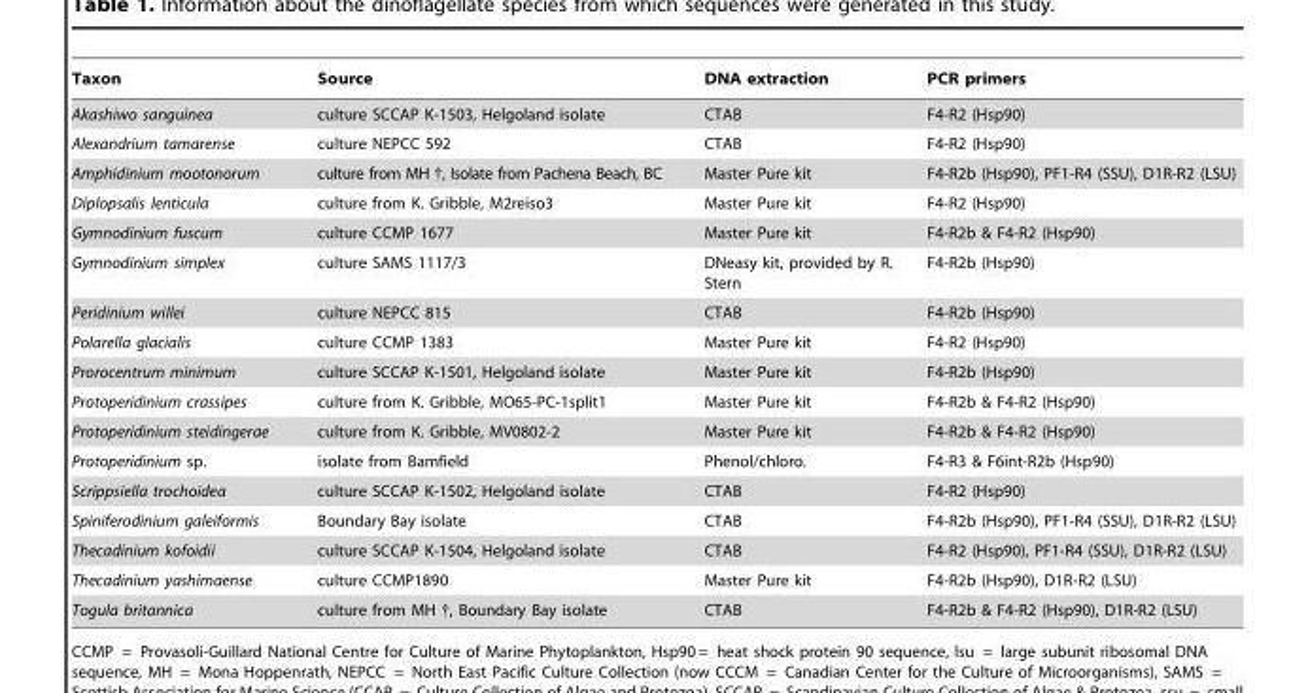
<table><thead><tr><td>Taxon</td><td>Source</td><td>DNA extraction</td><td>PCR primers</td></tr></thead><tbody><tr><td>Akashiwo sanguinea</td><td>culture SCCAP K-1503, Helgoland isolate</td><td>CTAB</td><td>F4-R2 (Hsp90)</td></tr><tr><td>Alexandrium tamarense</td><td>culture NEPCC 592</td><td>CTAB</td><td>F4-R2 (Hsp90)</td></tr><tr><td>Amphidinium mootonorum</td><td>culture from MH †, Isolate from Pachena Beach, BC</td><td>Master Pure kit</td><td>F4-R2b (Hsp90), PF1-R4 (SSU), D1R-R2 (LSU)</td></tr><tr><td>Diplopsalis lenticula</td><td>culture from K. Gribble, M2reiso3</td><td>Master Pure kit</td><td>F4-R2 (Hsp90)</td></tr><tr><td>Gymnodinium fuscum</td><td>culture CCMP 1677</td><td>Master Pure kit</td><td>F4-R2b &amp; F4-R2 (Hsp90)</td></tr><tr><td>Gymnodinium simplex</td><td>culture SAMS 1117/3</td><td>DNeasy kit, provided by R. Stern</td><td>F4-R2b (Hsp90)</td></tr><tr><td>Peridinium willei</td><td>culture NEPCC 815</td><td>CTAB</td><td>F4-R2b (Hsp90)</td></tr><tr><td>Polarella glacialis</td><td>culture CCMP 1383</td><td>Master Pure kit</td><td>F4-R2 (Hsp90)</td></tr><tr><td>Prorocentrum minimum</td><td>culture SCCAP K-1501, Helgoland isolate</td><td>Master Pure kit</td><td>F4-R2b (Hsp90)</td></tr><tr><td>Protoperidinium crassipes</td><td>culture from K. Gribble, MO65-PC-1split1</td><td>Master Pure kit</td><td>F4-R2b &amp; F4-R2 (Hsp90)</td></tr><tr><td>Protoperidinium steidingerae</td><td>culture from K. Gribble, MV0802-2</td><td>Master Pure kit</td><td>F4-R2b &amp; F4-R2 (Hsp90)</td></tr><tr><td>Protoperidinium sp.</td><td>isolate from Bamfield</td><td>Phenol/chloro.</td><td>F4-R3 &amp; F6int-R2b (Hsp90)</td></tr><tr><td>Scrippsiella trochoidea</td><td>culture SCCAP K-1502, Helgoland isolate</td><td>CTAB</td><td>F4-R2 (Hsp90)</td></tr><tr><td>Spiniferodinium galeiformis</td><td>Boundary Bay isolate</td><td>CTAB</td><td>F4-R2b (Hsp90), PF1-R4 (SSU), D1R-R2 (LSU)</td></tr><tr><td>Thecadinium kofoidii</td><td>culture SCCAP K-1504, Helgoland isolate</td><td>CTAB</td><td>F4-R2 (Hsp90), PF1-R4 (SSU), D1R-R2 (LSU)</td></tr><tr><td>Thecadinium yashimaense</td><td>culture CCMP1890</td><td>Master Pure kit</td><td>F4-R2b (Hsp90), D1R-R2 (LSU)</td></tr><tr><td>Togula britannica</td><td>culture from MH †, Boundary Bay isolate</td><td>CTAB</td><td>F4-R2b &amp; F4-R2 (Hsp90), D1R-R2 (LSU)</td></tr></tbody></table>